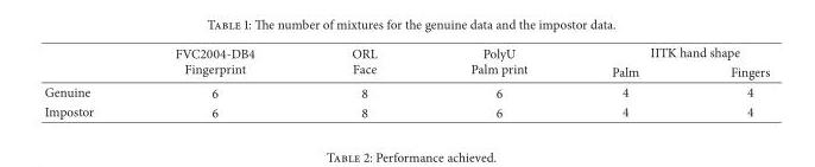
<table><thead><tr><td rowspan="2"></td><td rowspan="2">FVC2004-DB4 Fingerprint</td><td rowspan="2">ORL Face</td><td rowspan="2">PolyU Palm print</td><td colspan="2">IITK hand shape</td></tr><tr><td>Palm</td><td>Fingers</td></tr></thead><tbody><tr><td>Genuine</td><td>6</td><td>8</td><td>6</td><td>4</td><td>4</td></tr><tr><td>Impostor</td><td>6</td><td>8</td><td>6</td><td>4</td><td>4</td></tr></tbody></table>